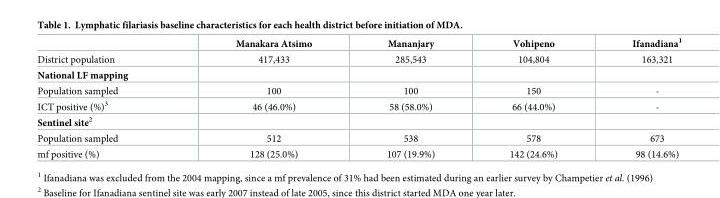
<table><thead><tr><td></td><td>Manakara Atsimo</td><td>Mananjary</td><td>Vohipeno</td><td>Ifanadiana<sup>1</sup></td></tr></thead><tbody><tr><td>District population</td><td>417,433</td><td>285,543</td><td>104,804</td><td>163,321</td></tr><tr><td colspan="5">National LF mapping</td></tr><tr><td>Population sampled</td><td>100</td><td>100</td><td>150</td><td>-</td></tr><tr><td>ICT positive (%)<sup>3</sup></td><td>46 (46.0%)</td><td>58 (58.0%)</td><td>66 (44.0%)</td><td>-</td></tr><tr><td colspan="5">Sentinel site<sup>2</sup></td></tr><tr><td>Population sampled</td><td>512</td><td>538</td><td>578</td><td>673</td></tr><tr><td>mf positive (%)</td><td>128 (25.0%)</td><td>107 (19.9%)</td><td>142 (24.6%)</td><td>98 (14.6%)</td></tr></tbody></table>